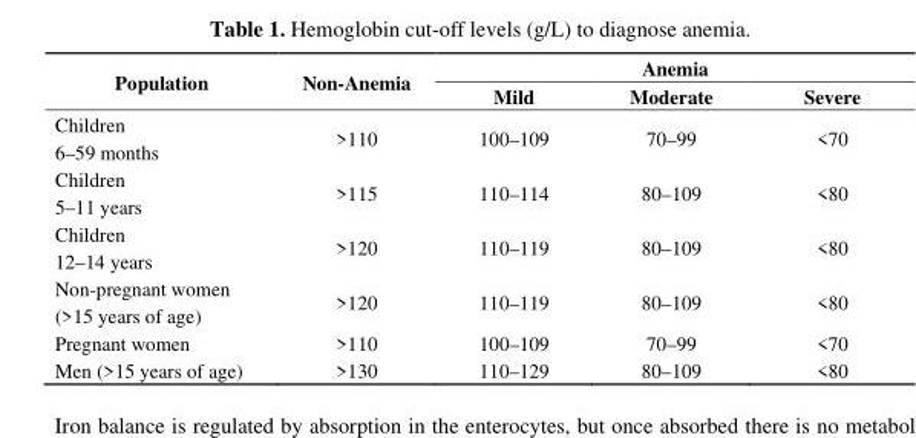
<table><thead><tr><td rowspan="2">Population</td><td rowspan="2">Non-Anemia</td><td colspan="3">Anemia</td></tr><tr><td>Mild</td><td>Moderate</td><td>Severe</td></tr></thead><tbody><tr><td>Children 6–59 months</td><td>&gt;110</td><td>100–109</td><td>70–99</td><td>&lt;70</td></tr><tr><td>Children 5–11 years</td><td>&gt;115</td><td>110–114</td><td>80–109</td><td>&lt;80</td></tr><tr><td>Children 12–14 years</td><td>&gt;120</td><td>110–119</td><td>80–109</td><td>&lt;80</td></tr><tr><td>Non-pregnant women (&gt;15 years of age)</td><td>&gt;120</td><td>110–119</td><td>80–109</td><td>&lt;80</td></tr><tr><td>Pregnant women</td><td>&gt;110</td><td>100–109</td><td>70–99</td><td>&lt;70</td></tr><tr><td>Men (&gt;15 years of age)</td><td>&gt;130</td><td>110–129</td><td>80–109</td><td>&lt;80</td></tr></tbody></table>